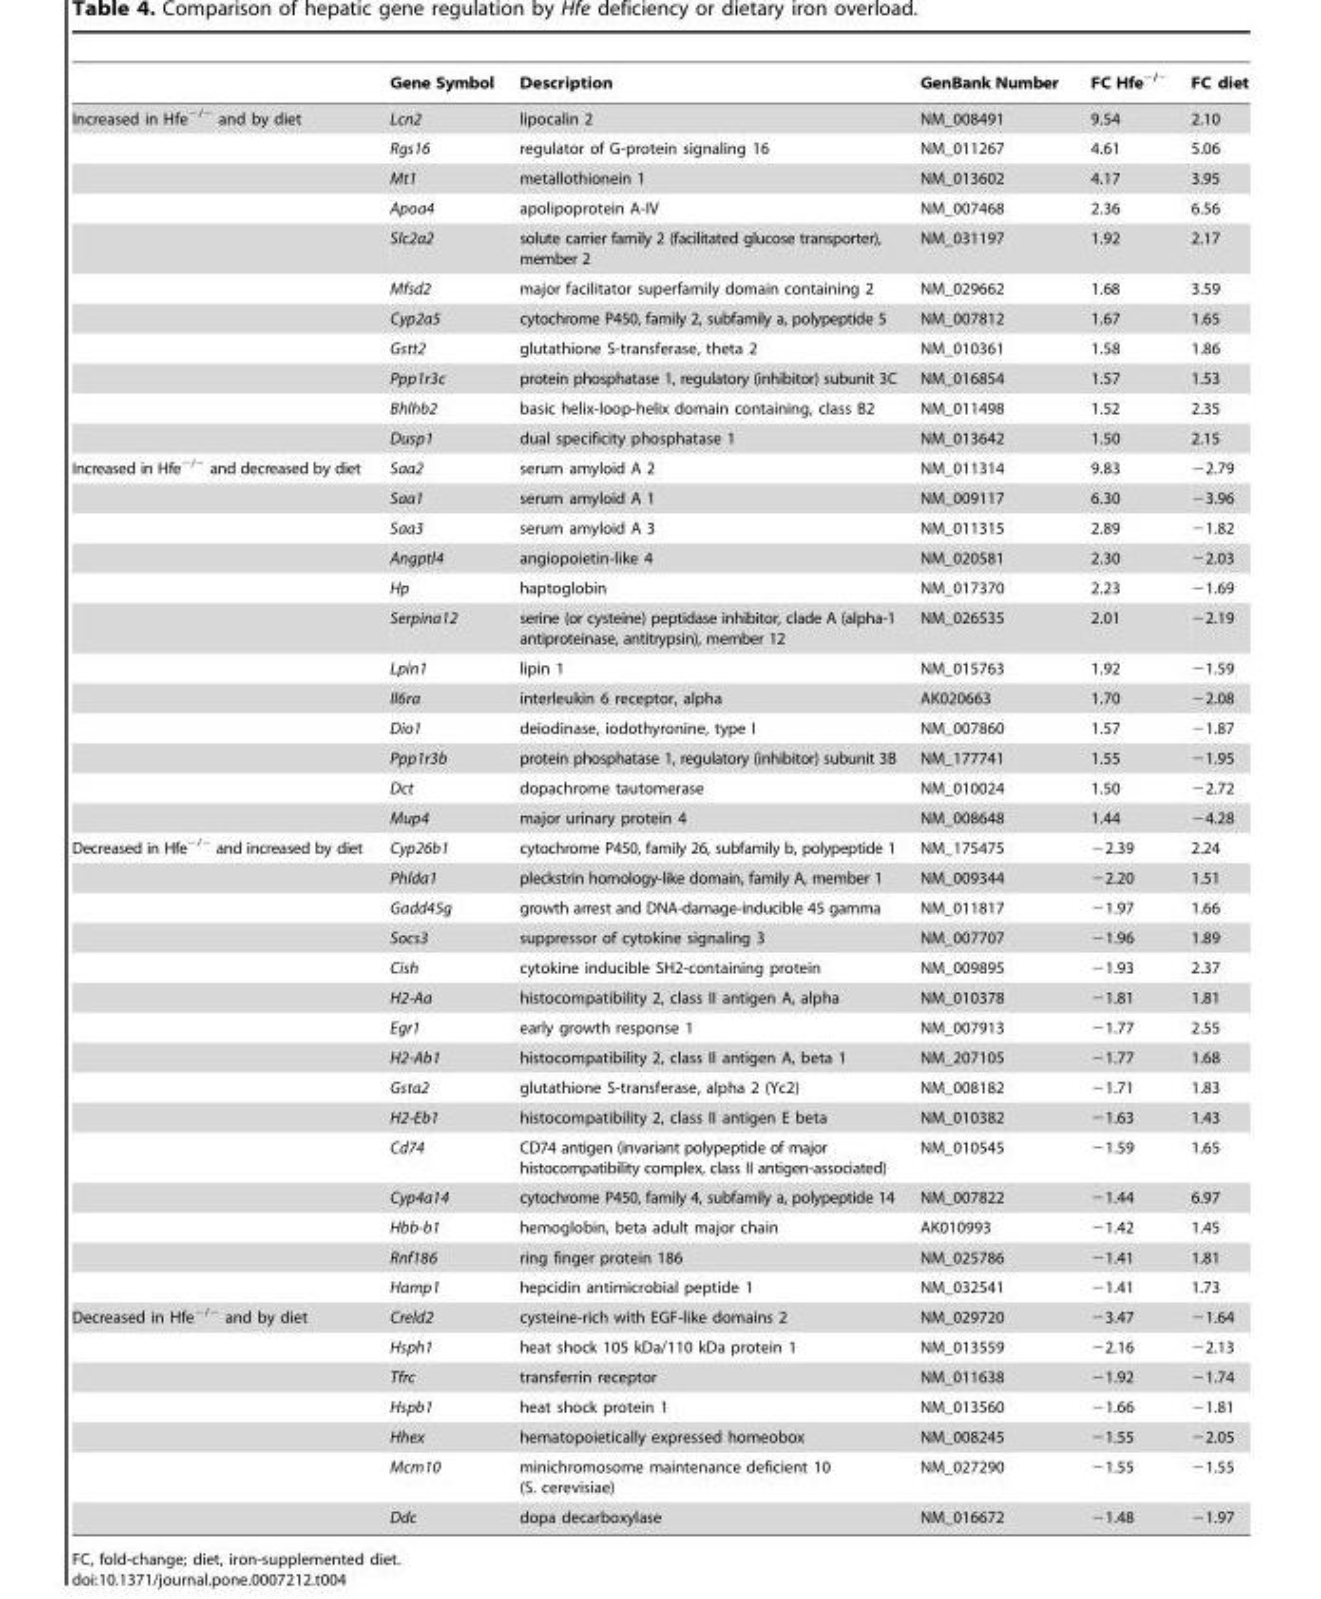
<table><thead><tr><td></td><td>Gene Symbol</td><td>Description</td><td>GenBank Number</td><td>FC Hfe<sup>−/−</sup></td><td>FC diet</td></tr></thead><tbody><tr><td rowspan="11">Increased in Hfe<sup>−/−</sup> and by diet</td><td>Lcn2</td><td>lipocalin 2</td><td>NM_008491</td><td>9.54</td><td>2.10</td></tr><tr><td>Rgs16</td><td>regulator of G-protein signaling 16</td><td>NM_011267</td><td>4.61</td><td>5.06</td></tr><tr><td>Mt1</td><td>metallothionein 1</td><td>NM_013602</td><td>4.17</td><td>3.95</td></tr><tr><td>Apoa4</td><td>apolipoprotein A-IV</td><td>NM_007468</td><td>2.36</td><td>6.56</td></tr><tr><td>Slc2a2</td><td>solute carrier family 2 (facilitated glucose transporter), member 2</td><td>NM_031197</td><td>1.92</td><td>2.17</td></tr><tr><td>Mfsd2</td><td>major facilitator superfamily domain containing 2</td><td>NM_029662</td><td>1.68</td><td>3.59</td></tr><tr><td>Cyp2a5</td><td>cytochrome P450, family 2, subfamily a, polypeptide 5</td><td>NM_007812</td><td>1.67</td><td>1.65</td></tr><tr><td>Gstt2</td><td>glutathione S-transferase, theta 2</td><td>NM_010361</td><td>1.58</td><td>1.86</td></tr><tr><td>Ppp1r3c</td><td>protein phosphatase 1, regulatory (inhibitor) subunit 3C</td><td>NM_016854</td><td>1.57</td><td>1.53</td></tr><tr><td>Bhlhb2</td><td>basic helix-loop-helix domain containing, class B2</td><td>NM_011498</td><td>1.52</td><td>2.35</td></tr><tr><td>Dusp1</td><td>dual specificity phosphatase 1</td><td>NM_013642</td><td>1.50</td><td>2.15</td></tr><tr><td rowspan="12">Increased in Hfe<sup>−/−</sup> and decreased by diet</td><td>Saa2</td><td>serum amyloid A 2</td><td>NM_011314</td><td>9.83</td><td>−2.79</td></tr><tr><td>Saa1</td><td>serum amyloid A 1</td><td>NM_009117</td><td>6.30</td><td>−3.96</td></tr><tr><td>Saa3</td><td>serum amyloid A 3</td><td>NM_011315</td><td>2.89</td><td>−1.82</td></tr><tr><td>Angptl4</td><td>angiopoietin-like 4</td><td>NM_020581</td><td>2.30</td><td>−2.03</td></tr><tr><td>Hp</td><td>haptoglobin</td><td>NM_017370</td><td>2.23</td><td>−1.69</td></tr><tr><td>Serpina12</td><td>serine (or cysteine) peptidase inhibitor, clade A (alpha-1 antiproteinase, antitrypsin), member 12</td><td>NM_026535</td><td>2.01</td><td>−2.19</td></tr><tr><td>Lpin1</td><td>lipin 1</td><td>NM_015763</td><td>1.92</td><td>−1.59</td></tr><tr><td>Il6ra</td><td>interleukin 6 receptor, alpha</td><td>AK020663</td><td>1.70</td><td>−2.08</td></tr><tr><td>Dio1</td><td>deiodinase, iodothyronine, type I</td><td>NM_007860</td><td>1.57</td><td>−1.87</td></tr><tr><td>Ppp1r3b</td><td>protein phosphatase 1, regulatory (inhibitor) subunit 3B</td><td>NM_177741</td><td>1.55</td><td>−1.95</td></tr><tr><td>Dct</td><td>dopachrome tautomerase</td><td>NM_010024</td><td>1.50</td><td>−2.72</td></tr><tr><td>Mup4</td><td>major urinary protein 4</td><td>NM_008648</td><td>1.44</td><td>−4.28</td></tr><tr><td rowspan="15">Decreased in Hfe<sup>−/−</sup> and increased by diet</td><td>Cyp26b1</td><td>cytochrome P450, family 26, subfamily b, polypeptide 1</td><td>NM_175475</td><td>−2.39</td><td>2.24</td></tr><tr><td>Phlda1</td><td>pleckstrin homology-like domain, family A, member 1</td><td>NM_009344</td><td>−2.20</td><td>1.51</td></tr><tr><td>Gadd45g</td><td>growth arrest and DNA-damage-inducible 45 gamma</td><td>NM_011817</td><td>−1.97</td><td>1.66</td></tr><tr><td>Socs3</td><td>suppressor of cytokine signaling 3</td><td>NM_007707</td><td>−1.96</td><td>1.89</td></tr><tr><td>Cish</td><td>cytokine inducible SH2-containing protein</td><td>NM_009895</td><td>−1.93</td><td>2.37</td></tr><tr><td>H2-Aa</td><td>histocompatibility 2, class II antigen A, alpha</td><td>NM_010378</td><td>−1.81</td><td>1.81</td></tr><tr><td>Egr1</td><td>early growth response 1</td><td>NM_007913</td><td>−1.77</td><td>2.55</td></tr><tr><td>H2-Ab1</td><td>histocompatibility 2, class II antigen A, beta 1</td><td>NM_207105</td><td>−1.77</td><td>1.68</td></tr><tr><td>Gsta2</td><td>glutathione S-transferase, alpha 2 (Yc2)</td><td>NM_008182</td><td>−1.71</td><td>1.83</td></tr><tr><td>H2-Eb1</td><td>histocompatibility 2, class II antigen E beta</td><td>NM_010382</td><td>−1.63</td><td>1.43</td></tr><tr><td>Cd74</td><td>CD74 antigen (invariant polypeptide of major histocompatibility complex, class II antigen-associated)</td><td>NM_010545</td><td>−1.59</td><td>1.65</td></tr><tr><td>Cyp4a14</td><td>cytochrome P450, family 4, subfamily a, polypeptide 14</td><td>NM_007822</td><td>−1.44</td><td>6.97</td></tr><tr><td>Hbb-b1</td><td>hemoglobin, beta adult major chain</td><td>AK010993</td><td>−1.42</td><td>1.45</td></tr><tr><td>Rnf186</td><td>ring finger protein 186</td><td>NM_025786</td><td>−1.41</td><td>1.81</td></tr><tr><td>Hamp1</td><td>hepcidin antimicrobial peptide 1</td><td>NM_032541</td><td>−1.41</td><td>1.73</td></tr><tr><td rowspan="7">Decreased in Hfe<sup>−/−</sup> and by diet</td><td>Creld2</td><td>cysteine-rich with EGF-like domains 2</td><td>NM_029720</td><td>−3.47</td><td>−1.64</td></tr><tr><td>Hsph1</td><td>heat shock 105 kDa/110 kDa protein 1</td><td>NM_013559</td><td>−2.16</td><td>−2.13</td></tr><tr><td>Tfrc</td><td>transferrin receptor</td><td>NM_011638</td><td>−1.92</td><td>−1.74</td></tr><tr><td>Hspb1</td><td>heat shock protein 1</td><td>NM_013560</td><td>−1.66</td><td>−1.81</td></tr><tr><td>Hhex</td><td>hematopoietically expressed homeobox</td><td>NM_008245</td><td>−1.55</td><td>−2.05</td></tr><tr><td>Mcm10</td><td>minichromosome maintenance deficient 10 (S. cerevisiae)</td><td>NM_027290</td><td>−1.55</td><td>−1.55</td></tr><tr><td>Ddc</td><td>dopa decarboxylase</td><td>NM_016672</td><td>−1.48</td><td>−1.97</td></tr></tbody></table>